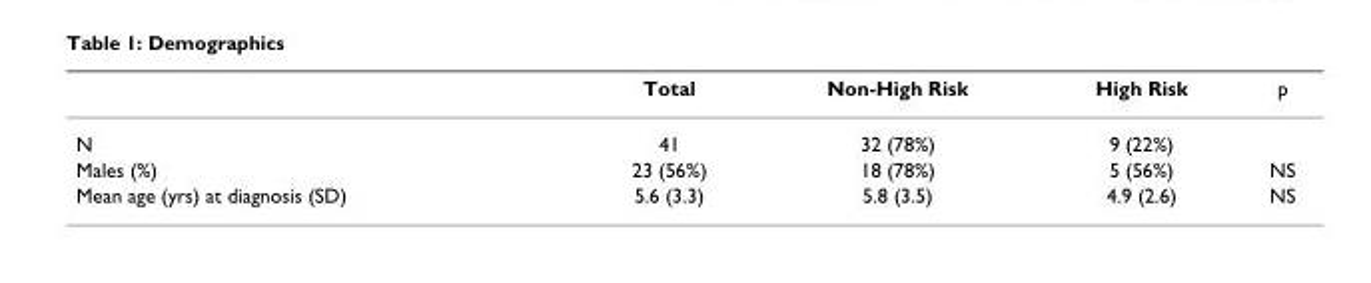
<table><thead><tr><td></td><td>Total</td><td>Non-High Risk</td><td>High Risk</td><td>p</td></tr></thead><tbody><tr><td>N</td><td>41</td><td>32 (78%)</td><td>9 (22%)</td><td></td></tr><tr><td>Males (%)</td><td>23 (56%)</td><td>18 (78%)</td><td>5 (56%)</td><td>NS</td></tr><tr><td>Mean age (yrs) at diagnosis (SD)</td><td>5.6 (3.3)</td><td>5.8 (3.5)</td><td>4.9 (2.6)</td><td>NS</td></tr></tbody></table>